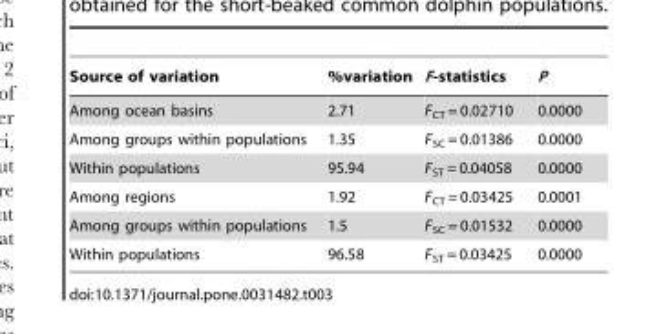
<table><thead><tr><td>Source of variation</td><td>%variation</td><td>F-statistics</td><td>P</td></tr></thead><tbody><tr><td>Among ocean basins</td><td>2.71</td><td>F<sub>CT</sub> = 0.02710</td><td>0.0000</td></tr><tr><td>Among groups within populations</td><td>1.35</td><td>F<sub>SC</sub> = 0.01386</td><td>0.0000</td></tr><tr><td>Within populations</td><td>95.94</td><td>F<sub>ST</sub> = 0.04058</td><td>0.0000</td></tr><tr><td>Among regions</td><td>1.92</td><td>F<sub>CT</sub> = 0.03425</td><td>0.0001</td></tr><tr><td>Among groups within populations</td><td>1.5</td><td>F<sub>SC</sub> = 0.01532</td><td>0.0000</td></tr><tr><td>Within populations</td><td>96.58</td><td>F<sub>ST</sub> = 0.03425</td><td>0.0000</td></tr></tbody></table>